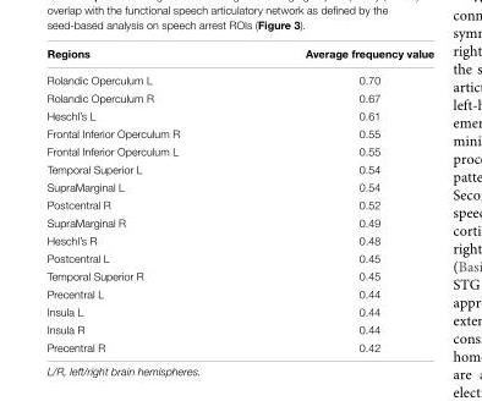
<table><thead><tr><td>Regions</td><td>Average frequency value</td></tr></thead><tbody><tr><td>Rolandic Operculum L</td><td>0.70</td></tr><tr><td>Rolandic Operculum R</td><td>0.67</td></tr><tr><td>Heschl’s L</td><td>0.61</td></tr><tr><td>Frontal Inferior Operculum R</td><td>0.55</td></tr><tr><td>Frontal Inferior Operculum L</td><td>0.55</td></tr><tr><td>Temporal Superior L</td><td>0.54</td></tr><tr><td>SupraMarginal L</td><td>0.54</td></tr><tr><td>Postcentral R</td><td>0.52</td></tr><tr><td>SupraMarginal R</td><td>0.49</td></tr><tr><td>Heschl’s R</td><td>0.48</td></tr><tr><td>Postcentral L</td><td>0.45</td></tr><tr><td>Temporal Superior R</td><td>0.45</td></tr><tr><td>Precentral L</td><td>0.44</td></tr><tr><td>Insula L</td><td>0.44</td></tr><tr><td>Insula R</td><td>0.44</td></tr><tr><td>Precentral R</td><td>0.42</td></tr></tbody></table>